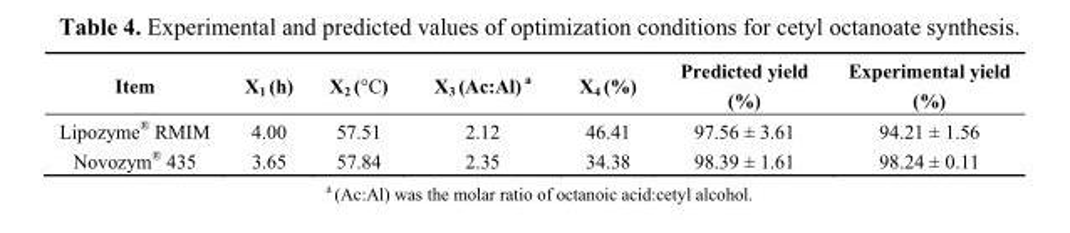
<table><thead><tr><td>Item</td><td>X<sub>1</sub> (h)</td><td>X<sub>2</sub> (°C)</td><td>X<sub>3</sub> (Ac:Al) a</td><td>X<sub>4</sub> (%)</td><td>Predicted yield (%)</td><td>Experimental yield (%)</td></tr></thead><tbody><tr><td>Lipozyme<sup>®</sup> RMIM</td><td>4.00</td><td>57.51</td><td>2.12</td><td>46.41</td><td>97.56 ± 3.61</td><td>94.21 ± 1.56</td></tr><tr><td>Novozym<sup>®</sup> 435</td><td>3.65</td><td>57.84</td><td>2.35</td><td>34.38</td><td>98.39 ± 1.61</td><td>98.24 ± 0.11</td></tr></tbody></table>